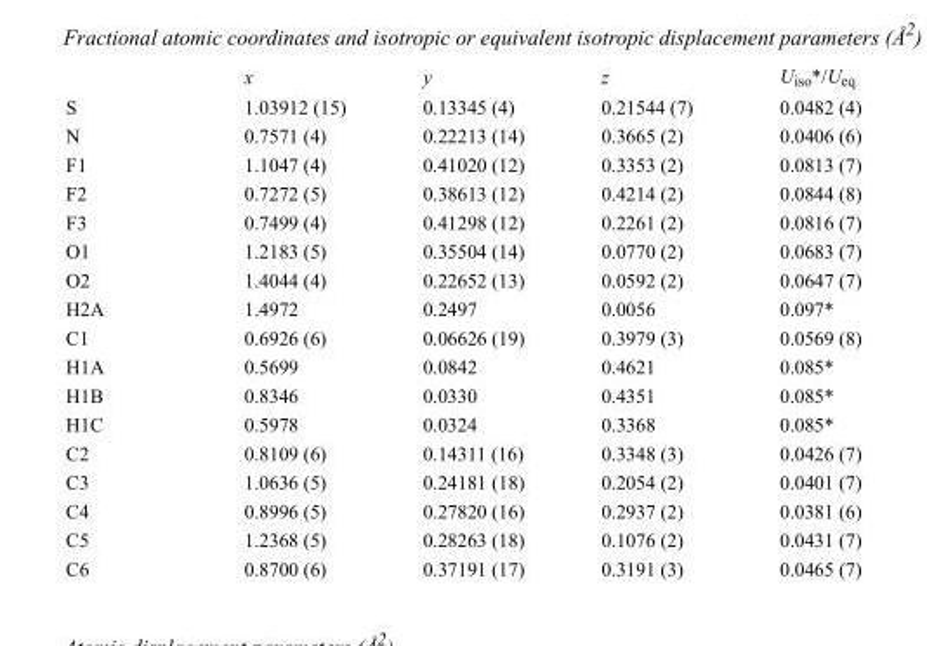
<table><thead><tr><td></td><td>x</td><td>y</td><td>z</td><td>U<sub>iso</sub>*/U<sub>eq</sub></td></tr></thead><tbody><tr><td>S</td><td>1.03912 (15)</td><td>0.13345 (4)</td><td>0.21544 (7)</td><td>0.0482 (4)</td></tr><tr><td>N</td><td>0.7571 (4)</td><td>0.22213 (14)</td><td>0.3665 (2)</td><td>0.0406 (6)</td></tr><tr><td>F1</td><td>1.1047 (4)</td><td>0.41020 (12)</td><td>0.3353 (2)</td><td>0.0813 (7)</td></tr><tr><td>F2</td><td>0.7272 (5)</td><td>0.38613 (12)</td><td>0.4214 (2)</td><td>0.0844 (8)</td></tr><tr><td>F3</td><td>0.7499 (4)</td><td>0.41298 (12)</td><td>0.2261 (2)</td><td>0.0816 (7)</td></tr><tr><td>O1</td><td>1.2183 (5)</td><td>0.35504 (14)</td><td>0.0770 (2)</td><td>0.0683 (7)</td></tr><tr><td>O2</td><td>1.4044 (4)</td><td>0.22652 (13)</td><td>0.0592 (2)</td><td>0.0647 (7)</td></tr><tr><td>H2A</td><td>1.4972</td><td>0.2497</td><td>0.0056</td><td>0.097*</td></tr><tr><td>C1</td><td>0.6926 (6)</td><td>0.06626 (19)</td><td>0.3979 (3)</td><td>0.0569 (8)</td></tr><tr><td>H1A</td><td>0.5699</td><td>0.0842</td><td>0.4621</td><td>0.085*</td></tr><tr><td>H1B</td><td>0.8346</td><td>0.0330</td><td>0.4351</td><td>0.085*</td></tr><tr><td>H1C</td><td>0.5978</td><td>0.0324</td><td>0.3368</td><td>0.085*</td></tr><tr><td>C2</td><td>0.8109 (6)</td><td>0.14311 (16)</td><td>0.3348 (3)</td><td>0.0426 (7)</td></tr><tr><td>C3</td><td>1.0636 (5)</td><td>0.24181 (18)</td><td>0.2054 (2)</td><td>0.0401 (7)</td></tr><tr><td>C4</td><td>0.8996 (5)</td><td>0.27820 (16)</td><td>0.2937 (2)</td><td>0.0381 (6)</td></tr><tr><td>C5</td><td>1.2368 (5)</td><td>0.28263 (18)</td><td>0.1076 (2)</td><td>0.0431 (7)</td></tr><tr><td>C6</td><td>0.8700 (6)</td><td>0.37191 (17)</td><td>0.3191 (3)</td><td>0.0465 (7)</td></tr></tbody></table>